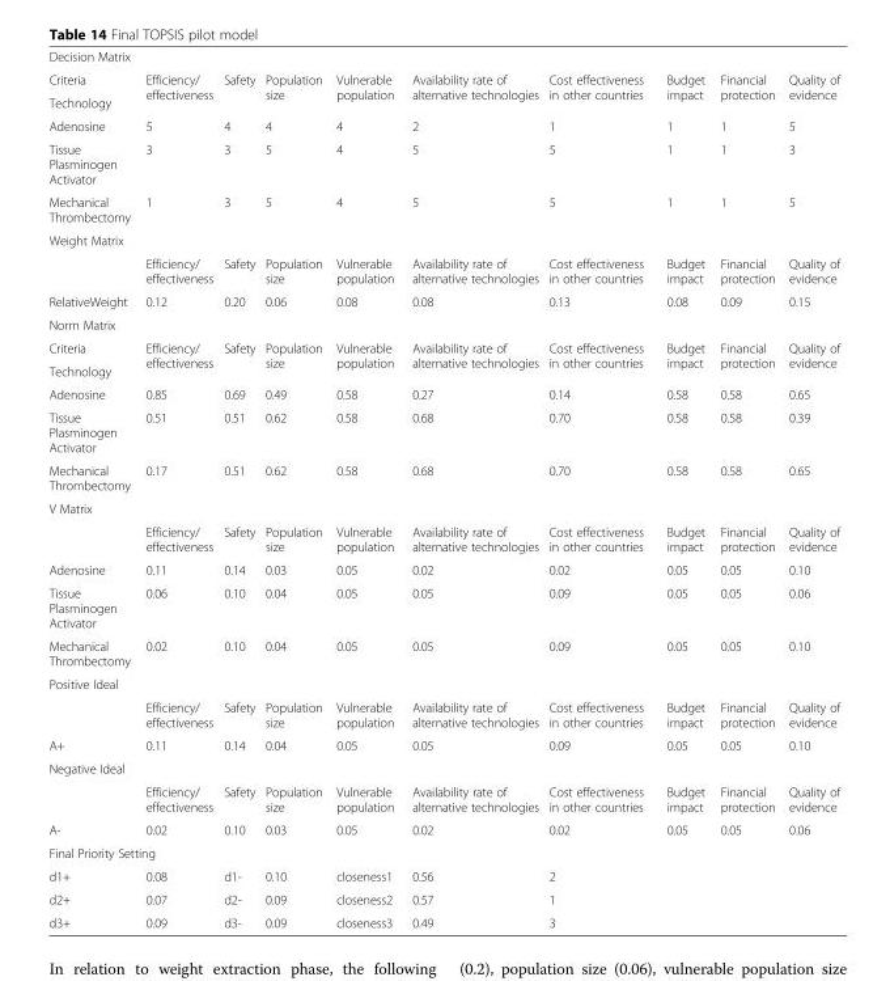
<table><tbody><tr><td colspan="10">Decision Matrix</td></tr><tr><td>Criteria</td><td rowspan="2">Efficiency/ effectiveness</td><td rowspan="2">Safety</td><td rowspan="2">Population size</td><td rowspan="2">Vulnerable population</td><td rowspan="2">Availability rate of alternative technologies</td><td rowspan="2">Cost effectiveness in other countries</td><td rowspan="2">Budget impact</td><td rowspan="2">Financial protection</td><td rowspan="2">Quality of evidence</td></tr><tr><td>Technology</td></tr><tr><td>Adenosine</td><td>5</td><td>4</td><td>4</td><td>4</td><td>2</td><td>1</td><td>1</td><td>1</td><td>5</td></tr><tr><td>Tissue Plasminogen Activator</td><td>3</td><td>3</td><td>5</td><td>4</td><td>5</td><td>5</td><td>1</td><td>1</td><td>3</td></tr><tr><td>Mechanical Thrombectomy</td><td>1</td><td>3</td><td>5</td><td>4</td><td>5</td><td>5</td><td>1</td><td>1</td><td>5</td></tr><tr><td colspan="10">Weight Matrix</td></tr><tr><td></td><td>Efficiency/ effectiveness</td><td>Safety</td><td>Population size</td><td>Vulnerable population</td><td>Availability rate of alternative technologies</td><td>Cost effectiveness in other countries</td><td>Budget impact</td><td>Financial protection</td><td>Quality of evidence</td></tr><tr><td>RelativeWeight</td><td>0.12</td><td>0.20</td><td>0.06</td><td>0.08</td><td>0.08</td><td>0.13</td><td>0.08</td><td>0.09</td><td>0.15</td></tr><tr><td colspan="10">Norm Matrix</td></tr><tr><td>Criteria</td><td rowspan="2">Efficiency/ effectiveness</td><td rowspan="2">Safety</td><td rowspan="2">Population size</td><td rowspan="2">Vulnerable population</td><td rowspan="2">Availability rate of alternative technologies</td><td rowspan="2">Cost effectiveness in other countries</td><td rowspan="2">Budget impact</td><td rowspan="2">Financial protection</td><td rowspan="2">Quality of evidence</td></tr><tr><td>Technology</td></tr><tr><td>Adenosine</td><td>0.85</td><td>0.69</td><td>0.49</td><td>0.58</td><td>0.27</td><td>0.14</td><td>0.58</td><td>0.58</td><td>0.65</td></tr><tr><td>Tissue Plasminogen Activator</td><td>0.51</td><td>0.51</td><td>0.62</td><td>0.58</td><td>0.68</td><td>0.70</td><td>0.58</td><td>0.58</td><td>0.39</td></tr><tr><td>Mechanical Thrombectomy</td><td>0.17</td><td>0.51</td><td>0.62</td><td>0.58</td><td>0.68</td><td>0.70</td><td>0.58</td><td>0.58</td><td>0.65</td></tr><tr><td colspan="10">V Matrix</td></tr><tr><td></td><td>Efficiency/ effectiveness</td><td>Safety</td><td>Population size</td><td>Vulnerable population</td><td>Availability rate of alternative technologies</td><td>Cost effectiveness in other countries</td><td>Budget impact</td><td>Financial protection</td><td>Quality of evidence</td></tr><tr><td>Adenosine</td><td>0.11</td><td>0.14</td><td>0.03</td><td>0.05</td><td>0.02</td><td>0.02</td><td>0.05</td><td>0.05</td><td>0.10</td></tr><tr><td>Tissue Plasminogen Activator</td><td>0.06</td><td>0.10</td><td>0.04</td><td>0.05</td><td>0.05</td><td>0.09</td><td>0.05</td><td>0.05</td><td>0.06</td></tr><tr><td>Mechanical Thrombectomy</td><td>0.02</td><td>0.10</td><td>0.04</td><td>0.05</td><td>0.05</td><td>0.09</td><td>0.05</td><td>0.05</td><td>0.10</td></tr><tr><td colspan="10">Positive Ideal</td></tr><tr><td></td><td>Efficiency/ effectiveness</td><td>Safety</td><td>Population size</td><td>Vulnerable population</td><td>Availability rate of alternative technologies</td><td>Cost effectiveness in other countries</td><td>Budget impact</td><td>Financial protection</td><td>Quality of evidence</td></tr><tr><td>A+</td><td>0.11</td><td>0.14</td><td>0.04</td><td>0.05</td><td>0.05</td><td>0.09</td><td>0.05</td><td>0.05</td><td>0.10</td></tr><tr><td colspan="10">Negative Ideal</td></tr><tr><td></td><td>Efficiency/ effectiveness</td><td>Safety</td><td>Population size</td><td>Vulnerable population</td><td>Availability rate of alternative technologies</td><td>Cost effectiveness in other countries</td><td>Budget impact</td><td>Financial protection</td><td>Quality of evidence</td></tr><tr><td>A-</td><td>0.02</td><td>0.10</td><td>0.03</td><td>0.05</td><td>0.02</td><td>0.02</td><td>0.05</td><td>0.05</td><td>0.06</td></tr><tr><td colspan="10">Final Priority Setting</td></tr><tr><td>d1+</td><td>0.08</td><td>d1-</td><td>0.10</td><td>closeness1</td><td>0.56</td><td>2</td><td></td><td></td><td></td></tr><tr><td>d2+</td><td>0.07</td><td>d2-</td><td>0.09</td><td>closeness2</td><td>0.57</td><td>1</td><td></td><td></td><td></td></tr><tr><td>d3+</td><td>0.09</td><td>d3-</td><td>0.09</td><td>closeness3</td><td>0.49</td><td>3</td><td></td><td></td><td></td></tr></tbody></table>